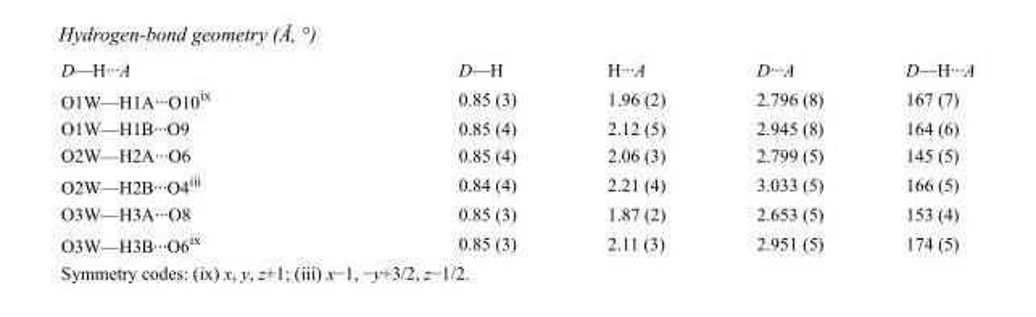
<table><tbody><tr><td>D—H···A</td><td>D—H</td><td>H···A</td><td>D···A</td><td>D—H···A</td></tr><tr><td>O1W—H1A···O10<sup>ix</sup></td><td>0.85 (3)</td><td>1.96 (2)</td><td>2.796 (8)</td><td>167 (7)</td></tr><tr><td>O1W—H1B···O9</td><td>0.85 (4)</td><td>2.12 (5)</td><td>2.945 (8)</td><td>164 (6)</td></tr><tr><td>O2W—H2A···O6</td><td>0.85 (4)</td><td>2.06 (3)</td><td>2.799 (5)</td><td>145 (5)</td></tr><tr><td>O2W—H2B···O4<sup>iii</sup></td><td>0.84 (4)</td><td>2.21 (4)</td><td>3.033 (5)</td><td>166 (5)</td></tr><tr><td>O3W—H3A···O8</td><td>0.85 (3)</td><td>1.87 (2)</td><td>2.653 (5)</td><td>153 (4)</td></tr><tr><td>O3W—H3B···O6<sup>ix</sup></td><td>0.85 (3)</td><td>2.11 (3)</td><td>2.951 (5)</td><td>174 (5)</td></tr></tbody></table>